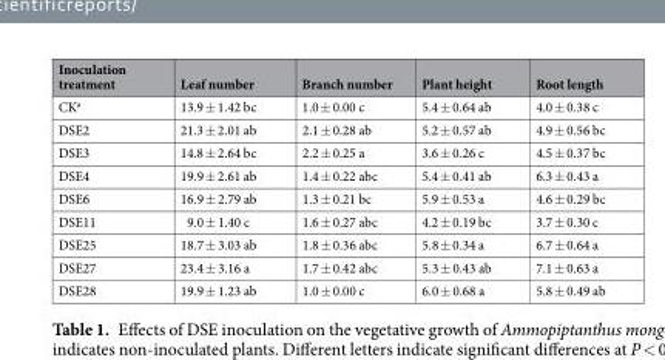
<table><thead><tr><td>Inoculation treatment</td><td>Leaf number</td><td>Branch number</td><td>Plant height</td><td>Root length</td></tr></thead><tbody><tr><td>CK<sup>a</sup></td><td>13.9 ± 1.42 bc</td><td>1.0 ± 0.00 c</td><td>5.4 ± 0.64 ab</td><td>4.0 ± 0.38 c</td></tr><tr><td>DSE2</td><td>21.3 ± 2.01 ab</td><td>2.1 ± 0.28 ab</td><td>5.2 ± 0.57 ab</td><td>4.9 ± 0.56 bc</td></tr><tr><td>DSE3</td><td>14.8 ± 2.64 bc</td><td>2.2 ± 0.25 a</td><td>3.6 ± 0.26 c</td><td>4.5 ± 0.37 bc</td></tr><tr><td>DSE4</td><td>19.9 ± 2.61 ab</td><td>1.4 ± 0.22 abc</td><td>5.4 ± 0.41 ab</td><td>6.3 ± 0.43 a</td></tr><tr><td>DSE6</td><td>16.9 ± 2.79 ab</td><td>1.3 ± 0.21 bc</td><td>5.9 ± 0.53 a</td><td>4.6 ± 0.29 bc</td></tr><tr><td>DSE11</td><td>9.0 ± 1.40 c</td><td>1.6 ± 0.27 abc</td><td>4.2 ± 0.19 bc</td><td>3.7 ± 0.30 c</td></tr><tr><td>DSE25</td><td>18.7 ± 3.03 ab</td><td>1.8 ± 0.36 abc</td><td>5.8 ± 0.34 a</td><td>6.7 ± 0.64 a</td></tr><tr><td>DSE27</td><td>23.4 ± 3.16 a</td><td>1.7 ± 0.42 abc</td><td>5.3 ± 0.43 ab</td><td>7.1 ± 0.63 a</td></tr><tr><td>DSE28</td><td>19.9 ± 1.23 ab</td><td>1.0 ± 0.00 c</td><td>6.0 ± 0.68 a</td><td>5.8 ± 0.49 ab</td></tr></tbody></table>